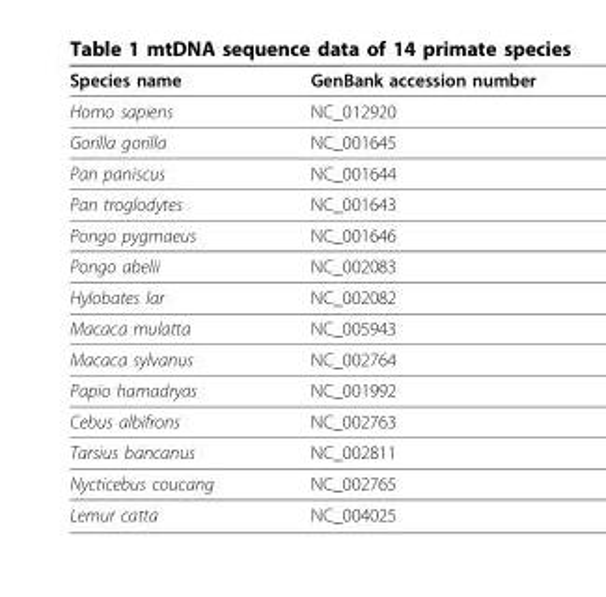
<table><thead><tr><td>Species name</td><td>GenBank accession number</td></tr></thead><tbody><tr><td>Homo sapiens</td><td>NC_012920</td></tr><tr><td>Gorilla gorilla</td><td>NC_001645</td></tr><tr><td>Pan paniscus</td><td>NC_001644</td></tr><tr><td>Pan troglodytes</td><td>NC_001643</td></tr><tr><td>Pongo pygmaeus</td><td>NC_001646</td></tr><tr><td>Pongo abelii</td><td>NC_002083</td></tr><tr><td>Hylobates lar</td><td>NC_002082</td></tr><tr><td>Macaca mulatta</td><td>NC_005943</td></tr><tr><td>Macaca sylvanus</td><td>NC_002764</td></tr><tr><td>Papio hamadryas</td><td>NC_001992</td></tr><tr><td>Cebus albifrons</td><td>NC_002763</td></tr><tr><td>Tarsius bancanus</td><td>NC_002811</td></tr><tr><td>Nycticebus coucang</td><td>NC_002765</td></tr><tr><td>Lemur catta</td><td>NC_004025</td></tr></tbody></table>